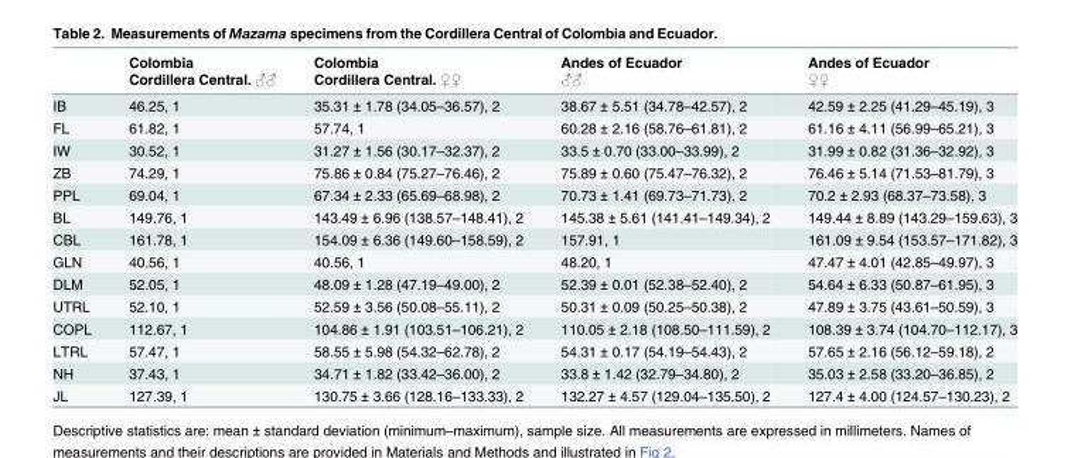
<table><thead><tr><td rowspan="2"></td><td rowspan="2">Colombia Cordillera Central. ♂♂</td><td rowspan="2">Colombia Cordillera Central. ♀♀</td><td rowspan="2">Andes of Ecuador ♂♂</td><td rowspan="2">Andes of Ecuador ♀♀</td></tr><tr></tr></thead><tbody><tr><td>IB</td><td>46.25, 1</td><td>35.31 ± 1.78 (34.05–36.57), 2</td><td>38.67 ± 5.51 (34.78–42.57), 2</td><td>42.59 ± 2.25 (41.29–45.19), 3</td></tr><tr><td>FL</td><td>61.82, 1</td><td>57.74, 1</td><td>60.28 ± 2.16 (58.76–61.81), 2</td><td>61.16 ± 4.11 (56.99–65.21), 3</td></tr><tr><td>IW</td><td>30.52, 1</td><td>31.27 ± 1.56 (30.17–32.37), 2</td><td>33.5 ± 0.70 (33.00–33.99), 2</td><td>31.99 ± 0.82 (31.36–32.92), 3</td></tr><tr><td>ZB</td><td>74.29, 1</td><td>75.86 ± 0.84 (75.27–76.46), 2</td><td>75.89 ± 0.60 (75.47–76.32), 2</td><td>76.46 ± 5.14 (71.53–81.79), 3</td></tr><tr><td>PPL</td><td>69.04, 1</td><td>67.34 ± 2.33 (65.69–68.98), 2</td><td>70.73 ± 1.41 (69.73–71.73), 2</td><td>70.2 ± 2.93 (68.37–73.58), 3</td></tr><tr><td>BL</td><td>149.76, 1</td><td>143.49 ± 6.96 (138.57–148.41), 2</td><td>145.38 ± 5.61 (141.41–149.34), 2</td><td>149.44 ± 8.89 (143.29–159.63), 3</td></tr><tr><td>CBL</td><td>161.78, 1</td><td>154.09 ± 6.36 (149.60–158.59), 2</td><td>157.91, 1</td><td>161.09 ± 9.54 (153.57–171.82), 3</td></tr><tr><td>GLN</td><td>40.56, 1</td><td>40.56, 1</td><td>48.20, 1</td><td>47.47 ± 4.01 (42.85–49.97), 3</td></tr><tr><td>DLM</td><td>52.05, 1</td><td>48.09 ± 1.28 (47.19–49.00), 2</td><td>52.39 ± 0.01 (52.38–52.40), 2</td><td>54.64 ± 6.33 (50.87–61.95), 3</td></tr><tr><td>UTRL</td><td>52.10, 1</td><td>52.59 ± 3.56 (50.08–55.11), 2</td><td>50.31 ± 0.09 (50.25–50.38), 2</td><td>47.89 ± 3.75 (43.61–50.59), 3</td></tr><tr><td>COPL</td><td>112.67, 1</td><td>104.86 ± 1.91 (103.51–106.21), 2</td><td>110.05 ± 2.18 (108.50–111.59), 2</td><td>108.39 ± 3.74 (104.70–112.17), 3</td></tr><tr><td>LTRL</td><td>57.47, 1</td><td>58.55 ± 5.98 (54.32–62.78), 2</td><td>54.31 ± 0.17 (54.19–54.43), 2</td><td>57.65 ± 2.16 (56.12–59.18), 2</td></tr><tr><td>NH</td><td>37.43, 1</td><td>34.71 ± 1.82 (33.42–36.00), 2</td><td>33.8 ± 1.42 (32.79–34.80), 2</td><td>35.03 ± 2.58 (33.20–36.85), 2</td></tr><tr><td>JL</td><td>127.39, 1</td><td>130.75 ± 3.66 (128.16–133.33), 2</td><td>132.27 ± 4.57 (129.04–135.50), 2</td><td>127.4 ± 4.00 (124.57–130.23), 2</td></tr></tbody></table>